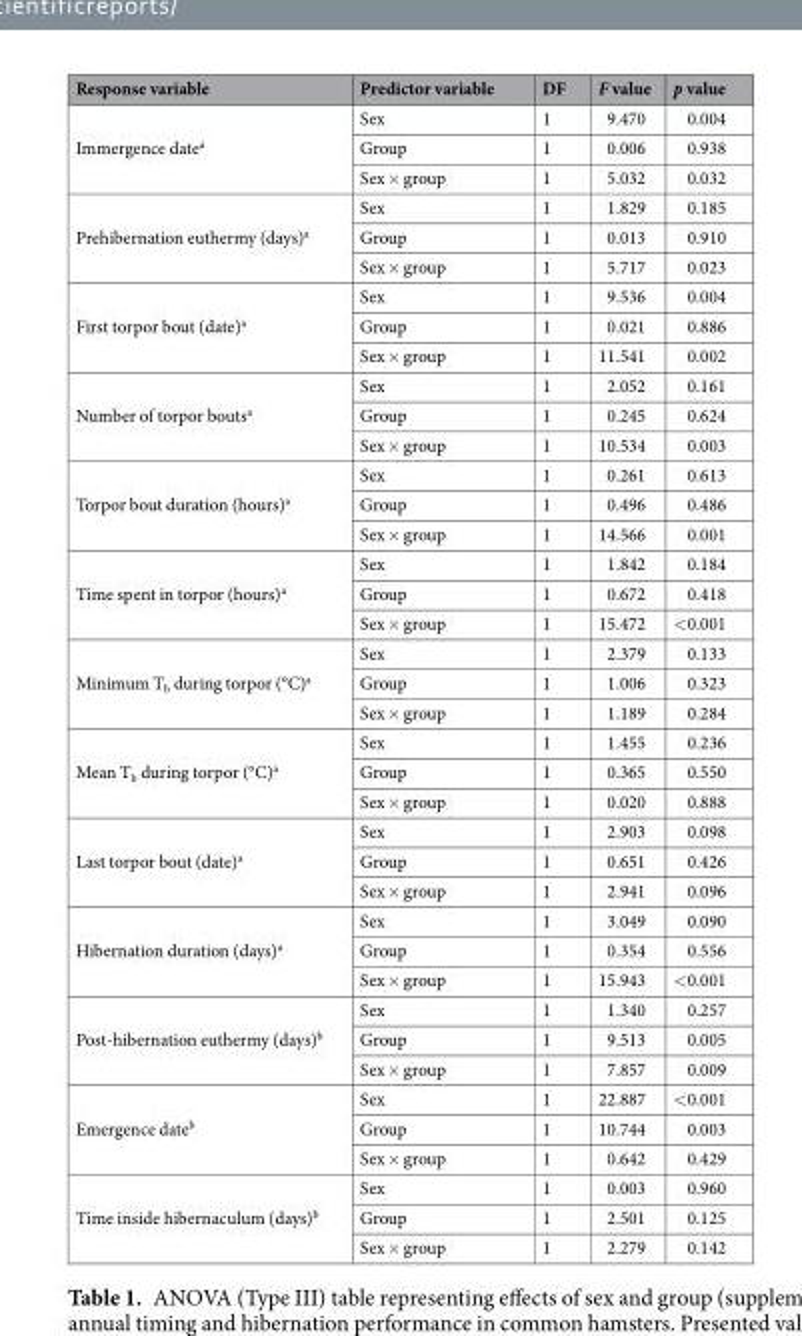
<table><thead><tr><td>Response variable</td><td>Predictor variable</td><td>DF</td><td>F value</td><td>p value</td></tr></thead><tbody><tr><td rowspan="3">Immergence date<sup>a</sup></td><td>Sex</td><td>1</td><td>9.470</td><td>0.004</td></tr><tr><td>Group</td><td>1</td><td>0.006</td><td>0.938</td></tr><tr><td>Sex × group</td><td>1</td><td>5.032</td><td>0.032</td></tr><tr><td rowspan="3">Prehibernation euthermy (days)<sup>a</sup></td><td>Sex</td><td>1</td><td>1.829</td><td>0.185</td></tr><tr><td>Group</td><td>1</td><td>0.013</td><td>0.910</td></tr><tr><td>Sex × group</td><td>1</td><td>5.717</td><td>0.023</td></tr><tr><td rowspan="3">First torpor bout (date)<sup>a</sup></td><td>Sex</td><td>1</td><td>9.536</td><td>0.004</td></tr><tr><td>Group</td><td>1</td><td>0.021</td><td>0.886</td></tr><tr><td>Sex × group</td><td>1</td><td>11.541</td><td>0.002</td></tr><tr><td rowspan="3">Number of torpor bouts<sup>a</sup></td><td>Sex</td><td>1</td><td>2.052</td><td>0.161</td></tr><tr><td>Group</td><td>1</td><td>0.245</td><td>0.624</td></tr><tr><td>Sex × group</td><td>1</td><td>10.534</td><td>0.003</td></tr><tr><td rowspan="3">Torpor bout duration (hours)<sup>a</sup></td><td>Sex</td><td>1</td><td>0.261</td><td>0.613</td></tr><tr><td>Group</td><td>1</td><td>0.496</td><td>0.486</td></tr><tr><td>Sex × group</td><td>1</td><td>14.566</td><td>0.001</td></tr><tr><td rowspan="3">Time spent in torpor (hours)<sup>a</sup></td><td>Sex</td><td>1</td><td>1.842</td><td>0.184</td></tr><tr><td>Group</td><td>1</td><td>0.672</td><td>0.418</td></tr><tr><td>Sex × group</td><td>1</td><td>15.472</td><td>&lt;0.001</td></tr><tr><td rowspan="3">Minimum T<sub>b</sub> during torpor (°C)<sup>a</sup></td><td>Sex</td><td>1</td><td>2.379</td><td>0.133</td></tr><tr><td>Group</td><td>1</td><td>1.006</td><td>0.323</td></tr><tr><td>Sex × group</td><td>1</td><td>1.189</td><td>0.284</td></tr><tr><td rowspan="3">Mean T<sub>b</sub> during torpor (°C)<sup>a</sup></td><td>Sex</td><td>1</td><td>1.455</td><td>0.236</td></tr><tr><td>Group</td><td>1</td><td>0.365</td><td>0.550</td></tr><tr><td>Sex × group</td><td>1</td><td>0.020</td><td>0.888</td></tr><tr><td rowspan="3">Last torpor bout (date)<sup>a</sup></td><td>Sex</td><td>1</td><td>2.903</td><td>0.098</td></tr><tr><td>Group</td><td>1</td><td>0.651</td><td>0.426</td></tr><tr><td>Sex × group</td><td>1</td><td>2.941</td><td>0.096</td></tr><tr><td rowspan="3">Hibernation duration (days)<sup>a</sup></td><td>Sex</td><td>1</td><td>3.049</td><td>0.090</td></tr><tr><td>Group</td><td>1</td><td>0.354</td><td>0.556</td></tr><tr><td>Sex × group</td><td>1</td><td>15.943</td><td>&lt;0.001</td></tr><tr><td rowspan="3">Post-hibernation euthermy (days)<sup>b</sup></td><td>Sex</td><td>1</td><td>1.340</td><td>0.257</td></tr><tr><td>Group</td><td>1</td><td>9.513</td><td>0.005</td></tr><tr><td>Sex × group</td><td>1</td><td>7.857</td><td>0.009</td></tr><tr><td rowspan="3">Emergence date<sup>b</sup></td><td>Sex</td><td>1</td><td>22.887</td><td>&lt;0.001</td></tr><tr><td>Group</td><td>1</td><td>10.744</td><td>0.003</td></tr><tr><td>Sex × group</td><td>1</td><td>0.642</td><td>0.429</td></tr><tr><td rowspan="3">Time inside hibernaculum (days)<sup>b</sup></td><td>Sex</td><td>1</td><td>0.003</td><td>0.960</td></tr><tr><td>Group</td><td>1</td><td>2.501</td><td>0.125</td></tr><tr><td>Sex × group</td><td>1</td><td>2.279</td><td>0.142</td></tr></tbody></table>